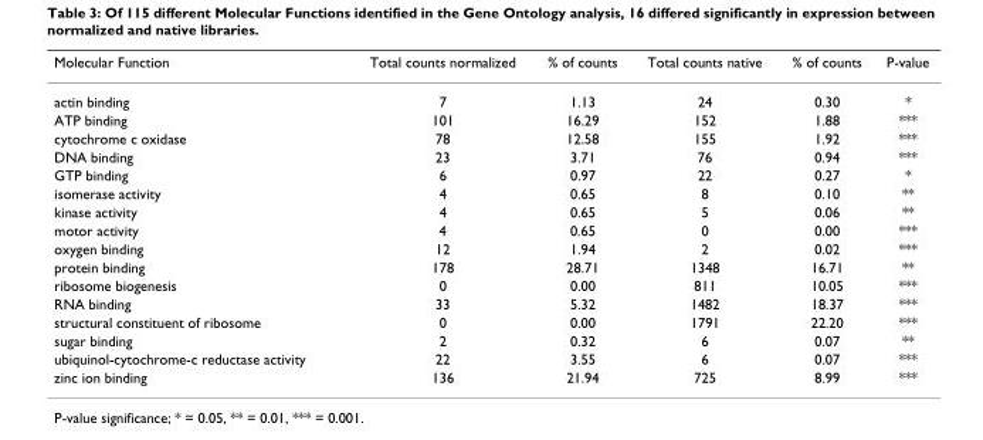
<table><thead><tr><td>Molecular Function</td><td>Total counts normalized</td><td>% of counts</td><td>Total counts native</td><td>% of counts</td><td>P-value</td></tr></thead><tbody><tr><td>actin binding</td><td>7</td><td>1.13</td><td>24</td><td>0.30</td><td>*</td></tr><tr><td>ATP binding</td><td>101</td><td>16.29</td><td>152</td><td>1.88</td><td>***</td></tr><tr><td>cytochrome c oxidase</td><td>78</td><td>12.58</td><td>155</td><td>1.92</td><td>***</td></tr><tr><td>DNA binding</td><td>23</td><td>3.71</td><td>76</td><td>0.94</td><td>***</td></tr><tr><td>GTP binding</td><td>6</td><td>0.97</td><td>22</td><td>0.27</td><td>*</td></tr><tr><td>isomerase activity</td><td>4</td><td>0.65</td><td>8</td><td>0.10</td><td>**</td></tr><tr><td>kinase activity</td><td>4</td><td>0.65</td><td>5</td><td>0.06</td><td>**</td></tr><tr><td>motor activity</td><td>4</td><td>0.65</td><td>0</td><td>0.00</td><td>***</td></tr><tr><td>oxygen binding</td><td>12</td><td>1.94</td><td>2</td><td>0.02</td><td>***</td></tr><tr><td>protein binding</td><td>178</td><td>28.71</td><td>1348</td><td>16.71</td><td>**</td></tr><tr><td>ribosome biogenesis</td><td>0</td><td>0.00</td><td>811</td><td>10.05</td><td>***</td></tr><tr><td>RNA binding</td><td>33</td><td>5.32</td><td>1482</td><td>18.37</td><td>***</td></tr><tr><td>structural constituent of ribosome</td><td>0</td><td>0.00</td><td>1791</td><td>22.20</td><td>***</td></tr><tr><td>sugar binding</td><td>2</td><td>0.32</td><td>6</td><td>0.07</td><td>**</td></tr><tr><td>ubiquinol-cytochrome-c reductase activity</td><td>22</td><td>3.55</td><td>6</td><td>0.07</td><td>***</td></tr><tr><td>zinc ion binding</td><td>136</td><td>21.94</td><td>725</td><td>8.99</td><td>***</td></tr></tbody></table>